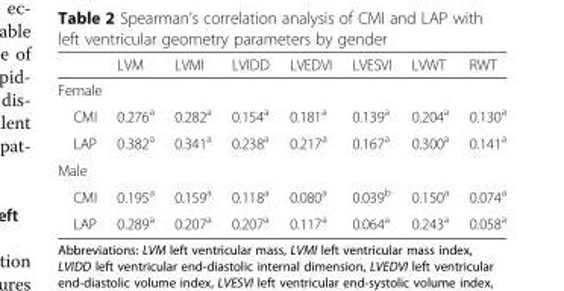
<table><thead><tr><td></td><td>LVM</td><td>LVMI</td><td>LVIDD</td><td>LVEDVI</td><td>LVESVI</td><td>LVWT</td><td>RWT</td></tr></thead><tbody><tr><td colspan="8">Female</td></tr><tr><td>CMI</td><td>0.276<sup>a</sup></td><td>0.282<sup>a</sup></td><td>0.154<sup>a</sup></td><td>0.181<sup>a</sup></td><td>0.139<sup>a</sup></td><td>0.204<sup>a</sup></td><td>0.130<sup>a</sup></td></tr><tr><td>LAP</td><td>0.382<sup>a</sup></td><td>0.341<sup>a</sup></td><td>0.238<sup>a</sup></td><td>0.217<sup>a</sup></td><td>0.167<sup>a</sup></td><td>0.300<sup>a</sup></td><td>0.141<sup>a</sup></td></tr><tr><td colspan="8">Male</td></tr><tr><td>CMI</td><td>0.195<sup>a</sup></td><td>0.159<sup>a</sup></td><td>0.118<sup>a</sup></td><td>0.080<sup>a</sup></td><td>0.039<sup>b</sup></td><td>0.150<sup>a</sup></td><td>0.074<sup>a</sup></td></tr><tr><td>LAP</td><td>0.289<sup>a</sup></td><td>0.207<sup>a</sup></td><td>0.207<sup>a</sup></td><td>0.117<sup>a</sup></td><td>0.064<sup>a</sup></td><td>0.243<sup>a</sup></td><td>0.058<sup>a</sup></td></tr></tbody></table>